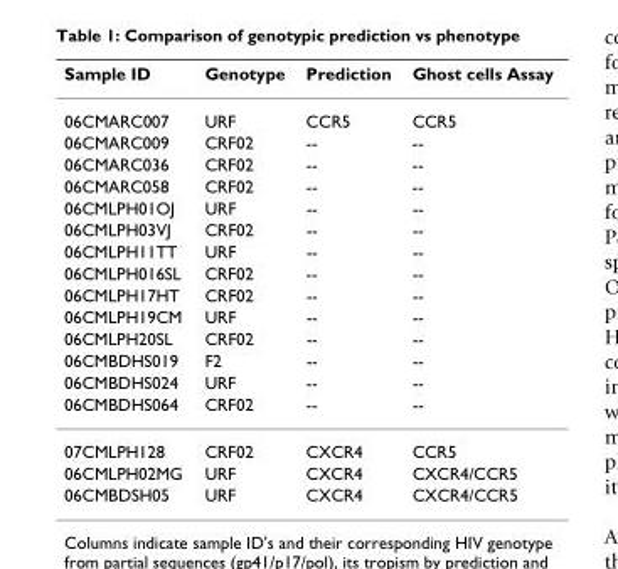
<table><thead><tr><td>Sample ID</td><td>Genotype</td><td>Prediction</td><td>Ghost cells Assay</td></tr></thead><tbody><tr><td>06CMARC007</td><td>URF</td><td>CCR5</td><td>CCR5</td></tr><tr><td>06CMARC009</td><td>CRF02</td><td>--</td><td>--</td></tr><tr><td>06CMARC036</td><td>CRF02</td><td>--</td><td>--</td></tr><tr><td>06CMARC058</td><td>CRF02</td><td>--</td><td>--</td></tr><tr><td>06CMLPH01OJ</td><td>URF</td><td>--</td><td>--</td></tr><tr><td>06CMLPH03VJ</td><td>CRF02</td><td>--</td><td>--</td></tr><tr><td>06CMLPH11TT</td><td>URF</td><td>--</td><td>--</td></tr><tr><td>06CMLPH016SL</td><td>CRF02</td><td>--</td><td>--</td></tr><tr><td>06CMLPH17HT</td><td>CRF02</td><td>--</td><td>--</td></tr><tr><td>06CMLPH19CM</td><td>URF</td><td>--</td><td>--</td></tr><tr><td>06CMLPH20SL</td><td>CRF02</td><td>--</td><td>--</td></tr><tr><td>06CMBDHS019</td><td>F2</td><td>--</td><td>--</td></tr><tr><td>06CMBDHS024</td><td>URF</td><td>--</td><td>--</td></tr><tr><td>06CMBDHS064</td><td>CRF02</td><td>--</td><td>--</td></tr><tr><td>07CMLPH128</td><td>CRF02</td><td>CXCR4</td><td>CCR5</td></tr><tr><td>06CMLPH02MG</td><td>URF</td><td>CXCR4</td><td>CXCR4/CCR5</td></tr><tr><td>06CMBDSH05</td><td>URF</td><td>CXCR4</td><td>CXCR4/CCR5</td></tr></tbody></table>